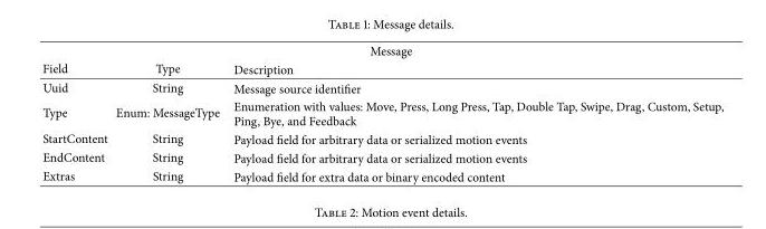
<table><thead><tr><td colspan="3">Message</td></tr><tr><td>Field</td><td>Type</td><td>Description</td></tr></thead><tbody><tr><td>Uuid</td><td>String</td><td>Message source identifier</td></tr><tr><td>Type</td><td>Enum: MessageType</td><td>Enumeration with values: Move, Press, Long Press, Tap, Double Tap, Swipe, Drag, Custom, Setup, Ping, Bye, and Feedback</td></tr><tr><td>StartContent</td><td>String</td><td>Payload field for arbitrary data or serialized motion events</td></tr><tr><td>EndContent</td><td>String</td><td>Payload field for arbitrary data or serialized motion events</td></tr><tr><td>Extras</td><td>String</td><td>Payload field for extra data or binary encoded content</td></tr></tbody></table>